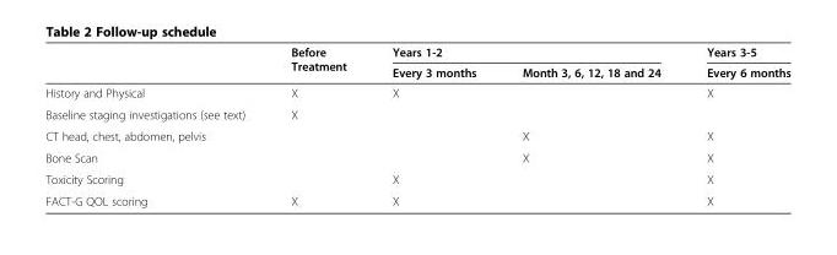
<table><thead><tr><td rowspan="2"></td><td rowspan="2">Before Treatment</td><td colspan="2">Years 1-2</td><td rowspan="2">Years 3-5 Every 6 months</td></tr><tr><td>Every 3 months</td><td>Month 3, 6, 12, 18 and 24</td></tr></thead><tbody><tr><td>History and Physical</td><td>X</td><td>X</td><td></td><td>X</td></tr><tr><td>Baseline staging investigations (see text)</td><td>X</td><td></td><td></td><td></td></tr><tr><td>CT head, chest, abdomen, pelvis</td><td></td><td></td><td>X</td><td>X</td></tr><tr><td>Bone Scan</td><td></td><td></td><td>X</td><td>X</td></tr><tr><td>Toxicity Scoring</td><td></td><td>X</td><td></td><td>X</td></tr><tr><td>FACT-G QOL scoring</td><td>X</td><td>X</td><td></td><td>X</td></tr></tbody></table>